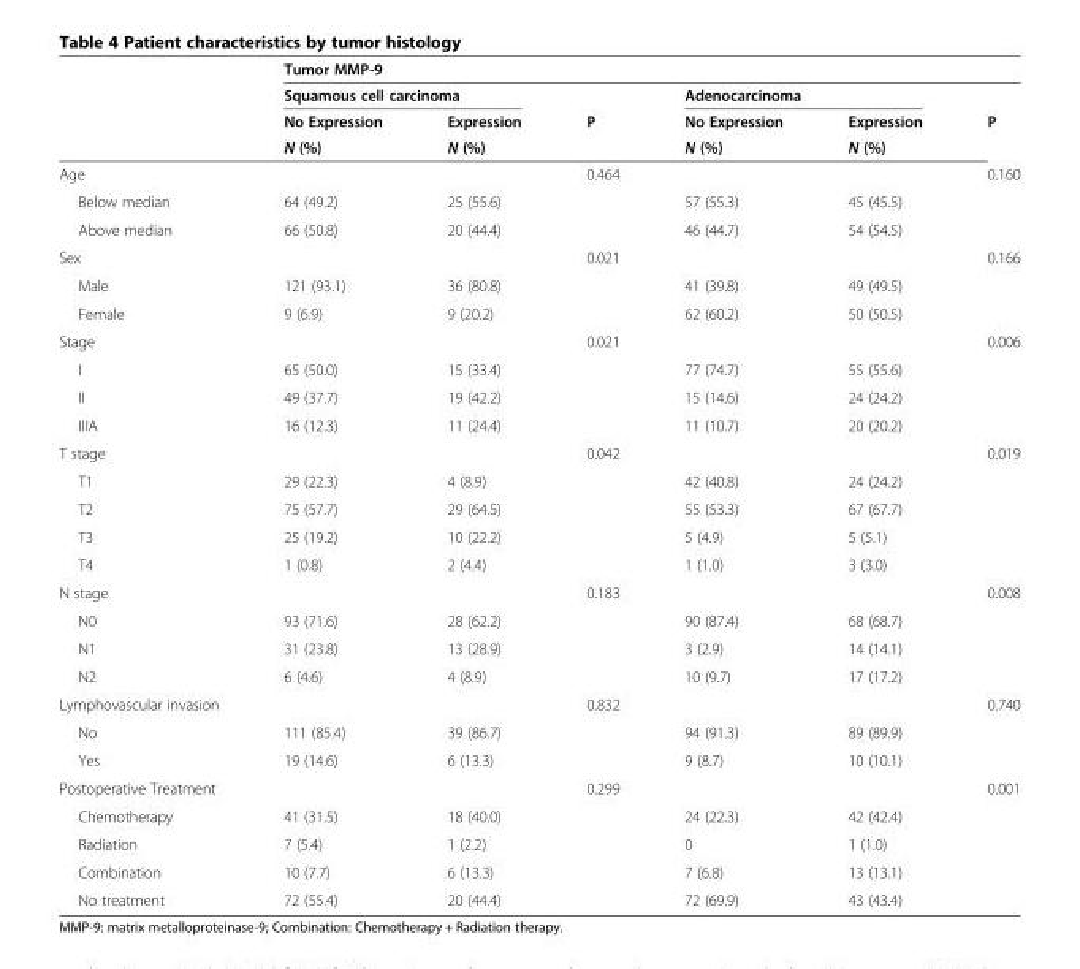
<table><thead><tr><td rowspan="4"></td><td colspan="6">Tumor MMP-9</td></tr><tr><td colspan="2">Squamous cell carcinoma</td><td rowspan="3">P</td><td colspan="2">Adenocarcinoma</td><td rowspan="3">P</td></tr><tr><td rowspan="2">No Expression N (%)</td><td rowspan="2">Expression N (%)</td><td rowspan="2">No Expression N (%)</td><td rowspan="2">Expression N (%)</td></tr><tr></tr></thead><tbody><tr><td>Age</td><td></td><td></td><td>0.464</td><td></td><td></td><td>0.160</td></tr><tr><td>Below median</td><td>64 (49.2)</td><td>25 (55.6)</td><td></td><td>57 (55.3)</td><td>45 (45.5)</td><td></td></tr><tr><td>Above median</td><td>66 (50.8)</td><td>20 (44.4)</td><td></td><td>46 (44.7)</td><td>54 (54.5)</td><td></td></tr><tr><td>Sex</td><td></td><td></td><td>0.021</td><td></td><td></td><td>0.166</td></tr><tr><td>Male</td><td>121 (93.1)</td><td>36 (80.8)</td><td></td><td>41 (39.8)</td><td>49 (49.5)</td><td></td></tr><tr><td>Female</td><td>9 (6.9)</td><td>9 (20.2)</td><td></td><td>62 (60.2)</td><td>50 (50.5)</td><td></td></tr><tr><td>Stage</td><td></td><td></td><td>0.021</td><td></td><td></td><td>0.006</td></tr><tr><td>I</td><td>65 (50.0)</td><td>15 (33.4)</td><td></td><td>77 (74.7)</td><td>55 (55.6)</td><td></td></tr><tr><td>II</td><td>49 (37.7)</td><td>19 (42.2)</td><td></td><td>15 (14.6)</td><td>24 (24.2)</td><td></td></tr><tr><td>IIIA</td><td>16 (12.3)</td><td>11 (24.4)</td><td></td><td>11 (10.7)</td><td>20 (20.2)</td><td></td></tr><tr><td>T stage</td><td></td><td></td><td>0.042</td><td></td><td></td><td>0.019</td></tr><tr><td>T1</td><td>29 (22.3)</td><td>4 (8.9)</td><td></td><td>42 (40.8)</td><td>24 (24.2)</td><td></td></tr><tr><td>T2</td><td>75 (57.7)</td><td>29 (64.5)</td><td></td><td>55 (53.3)</td><td>67 (67.7)</td><td></td></tr><tr><td>T3</td><td>25 (19.2)</td><td>10 (22.2)</td><td></td><td>5 (4.9)</td><td>5 (5.1)</td><td></td></tr><tr><td>T4</td><td>1 (0.8)</td><td>2 (4.4)</td><td></td><td>1 (1.0)</td><td>3 (3.0)</td><td></td></tr><tr><td>N stage</td><td></td><td></td><td>0.183</td><td></td><td></td><td>0.008</td></tr><tr><td>N0</td><td>93 (71.6)</td><td>28 (62.2)</td><td></td><td>90 (87.4)</td><td>68 (68.7)</td><td></td></tr><tr><td>N1</td><td>31 (23.8)</td><td>13 (28.9)</td><td></td><td>3 (2.9)</td><td>14 (14.1)</td><td></td></tr><tr><td>N2</td><td>6 (4.6)</td><td>4 (8.9)</td><td></td><td>10 (9.7)</td><td>17 (17.2)</td><td></td></tr><tr><td>Lymphovascular invasion</td><td></td><td></td><td>0.832</td><td></td><td></td><td>0.740</td></tr><tr><td>No</td><td>111 (85.4)</td><td>39 (86.7)</td><td></td><td>94 (91.3)</td><td>89 (89.9)</td><td></td></tr><tr><td>Yes</td><td>19 (14.6)</td><td>6 (13.3)</td><td></td><td>9 (8.7)</td><td>10 (10.1)</td><td></td></tr><tr><td>Postoperative Treatment</td><td></td><td></td><td>0.299</td><td></td><td></td><td>0.001</td></tr><tr><td>Chemotherapy</td><td>41 (31.5)</td><td>18 (40.0)</td><td></td><td>24 (22.3)</td><td>42 (42.4)</td><td></td></tr><tr><td>Radiation</td><td>7 (5.4)</td><td>1 (2.2)</td><td></td><td>0</td><td>1 (1.0)</td><td></td></tr><tr><td>Combination</td><td>10 (7.7)</td><td>6 (13.3)</td><td></td><td>7 (6.8)</td><td>13 (13.1)</td><td></td></tr><tr><td>No treatment</td><td>72 (55.4)</td><td>20 (44.4)</td><td></td><td>72 (69.9)</td><td>43 (43.4)</td><td></td></tr></tbody></table>